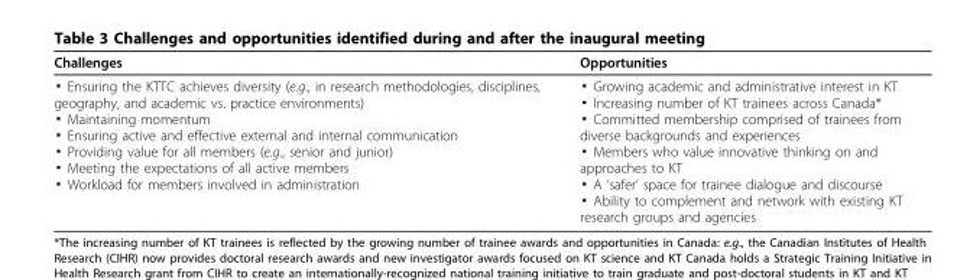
<table><thead><tr><td>Challenges</td><td>Opportunities</td></tr></thead><tbody><tr><td>▪ Ensuring the KTTC achieves diversity (e.g., in research methodologies, disciplines, geography, and academic vs. practice environments) ▪ Maintaining momentum ▪ Ensuring active and effective external and internal communication ▪ Providing value for all members (e.g., senior and junior) ▪ Meeting the expectations of all active members ▪ Workload for members involved in administration</td><td>▪ Growing academic and administrative interest in KT ▪ Increasing number of KT trainees across Canada* ▪ Committed membership comprised of trainees from diverse backgrounds and experiences ▪ Members who value innovative thinking on and approaches to KT ▪ A ‘safer’ space for trainee dialogue and discourse ▪ Ability to complement and network with existing KT research groups and agencies</td></tr></tbody></table>